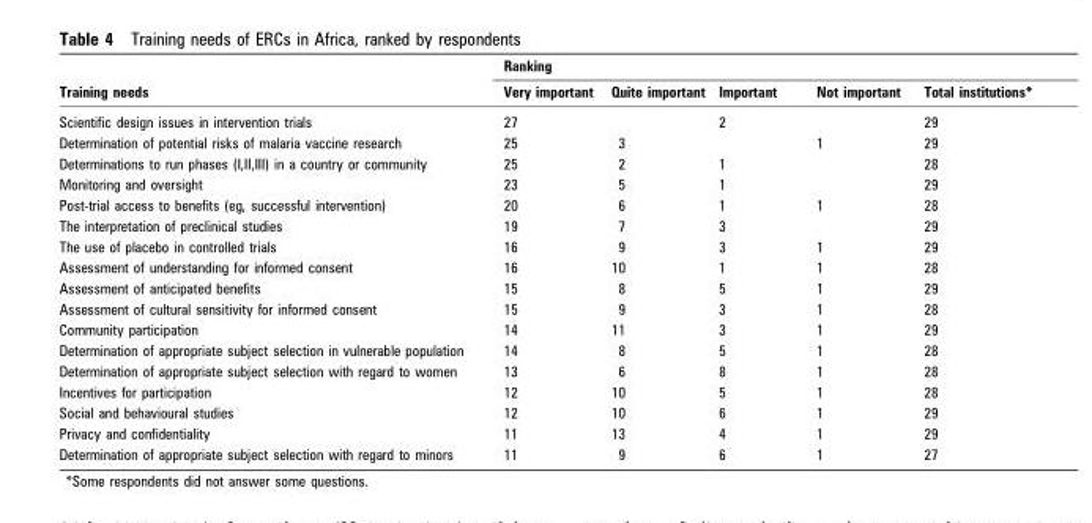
<table><thead><tr><td rowspan="2">Training needs</td><td colspan="5">Ranking</td></tr><tr><td>Very important</td><td>Quite important</td><td>Important</td><td>Not important</td><td>Total institutions*</td></tr></thead><tbody><tr><td>Scientific design issues in intervention trials</td><td>27</td><td></td><td>2</td><td></td><td>29</td></tr><tr><td>Determination of potential risks of malaria vaccine research</td><td>25</td><td>3</td><td></td><td>1</td><td>29</td></tr><tr><td>Determinations to run phases (I,II,III) in a country or community</td><td>25</td><td>2</td><td>1</td><td></td><td>28</td></tr><tr><td>Monitoring and oversight</td><td>23</td><td>5</td><td>1</td><td></td><td>29</td></tr><tr><td>Post-trial access to benefits (eg, successful intervention)</td><td>20</td><td>6</td><td>1</td><td>1</td><td>28</td></tr><tr><td>The interpretation of preclinical studies</td><td>19</td><td>7</td><td>3</td><td></td><td>29</td></tr><tr><td>The use of placebo in controlled trials</td><td>16</td><td>9</td><td>3</td><td>1</td><td>29</td></tr><tr><td>Assessment of understanding for informed consent</td><td>16</td><td>10</td><td>1</td><td>1</td><td>28</td></tr><tr><td>Assessment of anticipated benefits</td><td>15</td><td>8</td><td>5</td><td>1</td><td>29</td></tr><tr><td>Assessment of cultural sensitivity for informed consent</td><td>15</td><td>9</td><td>3</td><td>1</td><td>28</td></tr><tr><td>Community participation</td><td>14</td><td>11</td><td>3</td><td>1</td><td>29</td></tr><tr><td>Determination of appropriate subject selection in vulnerable population</td><td>14</td><td>8</td><td>5</td><td>1</td><td>28</td></tr><tr><td>Determination of appropriate subject selection with regard to women</td><td>13</td><td>6</td><td>8</td><td>1</td><td>28</td></tr><tr><td>Incentives for participation</td><td>12</td><td>10</td><td>5</td><td>1</td><td>28</td></tr><tr><td>Social and behavioural studies</td><td>12</td><td>10</td><td>6</td><td>1</td><td>29</td></tr><tr><td>Privacy and confidentiality</td><td>11</td><td>13</td><td>4</td><td>1</td><td>29</td></tr><tr><td>Determination of appropriate subject selection with regard to minors</td><td>11</td><td>9</td><td>6</td><td>1</td><td>27</td></tr></tbody></table>